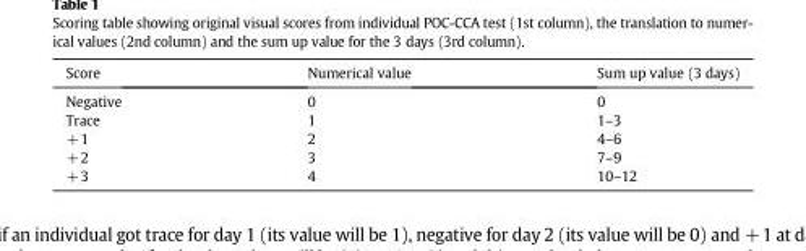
<table><thead><tr><td>Score</td><td>Numerical value</td><td>Sum up value (3 days)</td></tr></thead><tbody><tr><td>Negative</td><td>0</td><td>0</td></tr><tr><td>Trace</td><td>1</td><td>1–3</td></tr><tr><td>+1</td><td>2</td><td>4–6</td></tr><tr><td>+2</td><td>3</td><td>7–9</td></tr><tr><td>+3</td><td>4</td><td>10–12</td></tr></tbody></table>